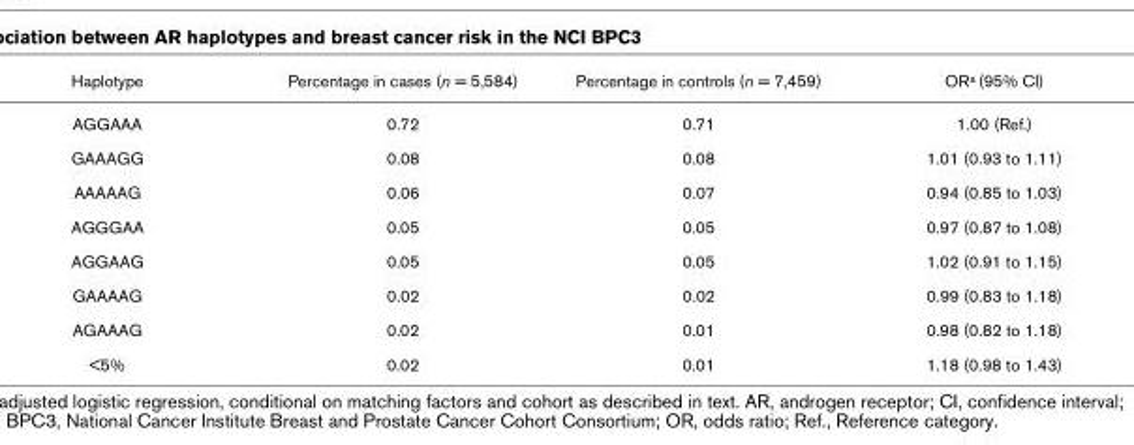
<table><thead><tr><td>Haplotype</td><td>Percentage in cases (n = 5,584)</td><td>Percentage in controls (n = 7,459)</td><td>ORa (95% CI)</td></tr></thead><tbody><tr><td>AGGAAA</td><td>0.72</td><td>0.71</td><td>1.00 (Ref.)</td></tr><tr><td>GAAAGG</td><td>0.08</td><td>0.08</td><td>1.01 (0.93 to 1.11)</td></tr><tr><td>AAAAAG</td><td>0.06</td><td>0.07</td><td>0.94 (0.85 to 1.03)</td></tr><tr><td>AGGGAA</td><td>0.05</td><td>0.05</td><td>0.97 (0.87 to 1.08)</td></tr><tr><td>AGGAAG</td><td>0.05</td><td>0.05</td><td>1.02 (0.91 to 1.15)</td></tr><tr><td>GAAAAG</td><td>0.02</td><td>0.02</td><td>0.99 (0.83 to 1.18)</td></tr><tr><td>AGAAAG</td><td>0.02</td><td>0.01</td><td>0.98 (0.82 to 1.18)</td></tr><tr><td>&lt;5%</td><td>0.02</td><td>0.01</td><td>1.18 (0.98 to 1.43)</td></tr></tbody></table>